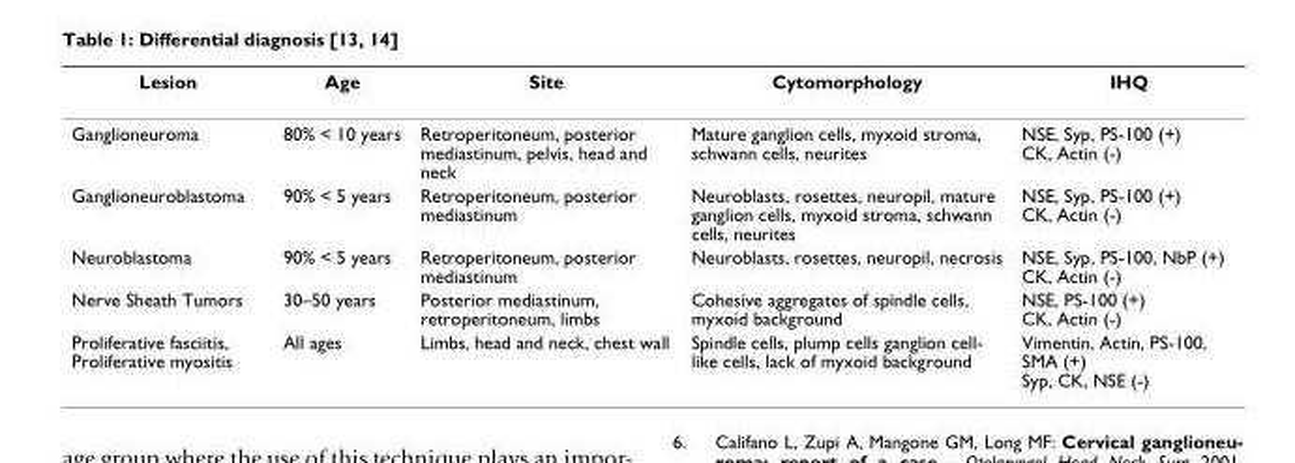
<table><thead><tr><td>Lesion</td><td>Age</td><td>Site</td><td>Cytomorphology</td><td>IHQ</td></tr></thead><tbody><tr><td>Ganglioneuroma</td><td>80% &lt; 10 years</td><td>Retroperitoneum, posterior mediastinum, pelvis, head and neck</td><td>Mature ganglion cells, myxoid stroma, schwann cells, neurites</td><td>NSE, Syp, PS-100 (+) CK, Actin (-)</td></tr><tr><td>Ganglioneuroblastoma</td><td>90% &lt; 5 years</td><td>Retroperitoneum, posterior mediastinum</td><td>Neuroblasts, rosettes, neuropil, mature ganglion cells, myxoid stroma, schwann cells, neurites</td><td>NSE, Syp, PS-100 (+) CK, Actin (-)</td></tr><tr><td>Neuroblastoma</td><td>90% &lt; 5 years</td><td>Retroperitoneum, posterior mediastinum</td><td>Neuroblasts, rosettes, neuropil, necrosis</td><td>NSE, Syp, PS-100, NbP (+) CK, Actin (-)</td></tr><tr><td>Nerve Sheath Tumors</td><td>30–50 years</td><td>Posterior mediastinum, retroperitoneum, limbs</td><td>Cohesive aggregates of spindle cells, myxoid background</td><td>NSE, PS-100 (+) CK, Actin (-)</td></tr><tr><td>Proliferative fasciitis, Proliferative myositis</td><td>All ages</td><td>Limbs, head and neck, chest wall</td><td>Spindle cells, plump cells ganglion cell- like cells, lack of myxoid background</td><td>Vimentin, Actin, PS-100, SMA (+) Syp, CK, NSE (-)</td></tr></tbody></table>